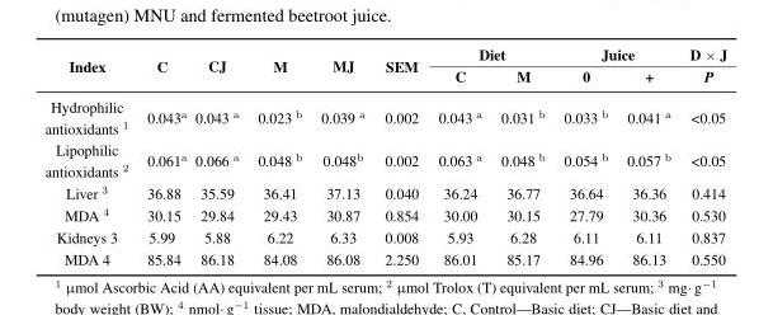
<table><thead><tr><td rowspan="2">Index</td><td rowspan="2">C</td><td rowspan="2">CJ</td><td rowspan="2">M</td><td rowspan="2">MJ</td><td rowspan="2">SEM</td><td colspan="2">Diet</td><td colspan="2">Juice</td><td rowspan="2">D ˆ J P</td></tr><tr><td>C</td><td>M</td><td>0</td><td>+</td></tr></thead><tbody><tr><td>Hydrophilic antioxidants <sup>1</sup></td><td>0.043<sup>a</sup></td><td>0.043 <sup>a</sup></td><td>0.023 <sup>b</sup></td><td>0.039 <sup>a</sup></td><td>0.002</td><td>0.043 <sup>a</sup></td><td>0.031 <sup>b</sup></td><td>0.033 <sup>b</sup></td><td>0.041 <sup>a</sup></td><td>&lt;0.05</td></tr><tr><td>Lipophilic antioxidants <sup>2</sup></td><td>0.061<sup>a</sup></td><td>0.066 <sup>a</sup></td><td>0.048 <sup>b</sup></td><td>0.048<sup>b</sup></td><td>0.002</td><td>0.063 <sup>a</sup></td><td>0.048 <sup>b</sup></td><td>0.054 <sup>b</sup></td><td>0.057 <sup>b</sup></td><td>&lt;0.05</td></tr><tr><td>Liver <sup>3</sup></td><td>36.88</td><td>35.59</td><td>36.41</td><td>37.13</td><td>0.040</td><td>36.24</td><td>36.77</td><td>36.64</td><td>36.36</td><td>0.414</td></tr><tr><td>MDA <sup>4</sup></td><td>30.15</td><td>29.84</td><td>29.43</td><td>30.87</td><td>0.854</td><td>30.00</td><td>30.15</td><td>27.79</td><td>30.36</td><td>0.530</td></tr><tr><td>Kidneys 3</td><td>5.99</td><td>5.88</td><td>6.22</td><td>6.33</td><td>0.008</td><td>5.93</td><td>6.28</td><td>6.11</td><td>6.11</td><td>0.837</td></tr><tr><td>MDA 4</td><td>85.84</td><td>86.18</td><td>84.08</td><td>86.08</td><td>2.250</td><td>86.01</td><td>85.17</td><td>84.96</td><td>86.13</td><td>0.550</td></tr></tbody></table>